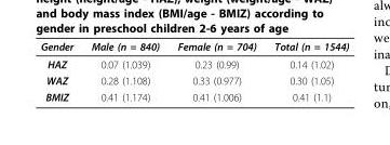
<table><thead><tr><td>Gender</td><td>Male (n = 840)</td><td>Female (n = 704)</td><td>Total (n = 1544)</td></tr></thead><tbody><tr><td>HAZ</td><td>0.07 (1.039)</td><td>0.23 (0.99)</td><td>0.14 (1.02)</td></tr><tr><td>WAZ</td><td>0.28 (1.108)</td><td>0.33 (0.977)</td><td>0.30 (1.05)</td></tr><tr><td>BMIZ</td><td>0.41 (1.174)</td><td>0.41 (1.006)</td><td>0.41 (1.1)</td></tr></tbody></table>